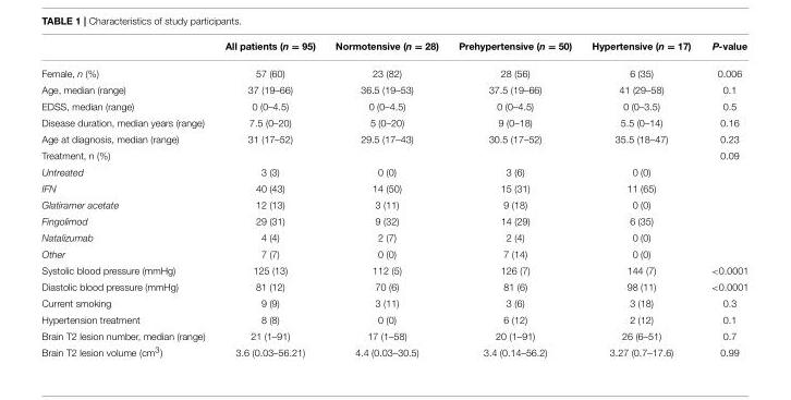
<table><thead><tr><td></td><td>All patients (n = 95)</td><td>Normotensive (n = 28)</td><td>Prehypertensive (n = 50)</td><td>Hypertensive (n = 17)</td><td>P-value</td></tr></thead><tbody><tr><td>Female, n (%)</td><td>57 (60)</td><td>23 (82)</td><td>28 (56)</td><td>6 (35)</td><td>0.006</td></tr><tr><td>Age, median (range)</td><td>37 (19–66)</td><td>36.5 (19–53)</td><td>37.5 (19–66)</td><td>41 (29–58)</td><td>0.1</td></tr><tr><td>EDSS, median (range)</td><td>0 (0–4.5)</td><td>0 (0–4.5)</td><td>0 (0–4.5)</td><td>0 (0–3.5)</td><td>0.5</td></tr><tr><td>Disease duration, median years (range)</td><td>7.5 (0–20)</td><td>5 (0–20)</td><td>9 (0–18)</td><td>5.5 (0–14)</td><td>0.16</td></tr><tr><td>Age at diagnosis, median (range)</td><td>31 (17–52)</td><td>29.5 (17–43)</td><td>30.5 (17–52)</td><td>35.5 (18–47)</td><td>0.23</td></tr><tr><td>Treatment, n (%)</td><td></td><td></td><td></td><td></td><td>0.09</td></tr><tr><td>Untreated</td><td>3 (3)</td><td>0 (0)</td><td>3 (6)</td><td>0 (0)</td><td></td></tr><tr><td>IFN</td><td>40 (43)</td><td>14 (50)</td><td>15 (31)</td><td>11 (65)</td><td></td></tr><tr><td>Glatiramer acetate</td><td>12 (13)</td><td>3 (11)</td><td>9 (18)</td><td>0 (0)</td><td></td></tr><tr><td>Fingolimod</td><td>29 (31)</td><td>9 (32)</td><td>14 (29)</td><td>6 (35)</td><td></td></tr><tr><td>Natalizumab</td><td>4 (4)</td><td>2 (7)</td><td>2 (4)</td><td>0 (0)</td><td></td></tr><tr><td>Other</td><td>7 (7)</td><td>0 (0)</td><td>7 (14)</td><td>0 (0)</td><td></td></tr><tr><td>Systolic blood pressure (mmHg)</td><td>125 (13)</td><td>112 (5)</td><td>126 (7)</td><td>144 (7)</td><td>&lt;0.0001</td></tr><tr><td>Diastolic blood pressure (mmHg)</td><td>81 (12)</td><td>70 (6)</td><td>81 (6)</td><td>98 (11)</td><td>&lt;0.0001</td></tr><tr><td>Current smoking</td><td>9 (9)</td><td>3 (11)</td><td>3 (6)</td><td>3 (18)</td><td>0.3</td></tr><tr><td>Hypertension treatment</td><td>8 (8)</td><td>0 (0)</td><td>6 (12)</td><td>2 (12)</td><td>0.1</td></tr><tr><td>Brain T2 lesion number, median (range)</td><td>21 (1–91)</td><td>17 (1–58)</td><td>20 (1–91)</td><td>26 (6–51)</td><td>0.7</td></tr><tr><td>Brain T2 lesion volume (cm<sup>3</sup>)</td><td>3.6 (0.03–56.21)</td><td>4.4 (0.03–30.5)</td><td>3.4 (0.14–56.2)</td><td>3.27 (0.7–17.6)</td><td>0.99</td></tr></tbody></table>